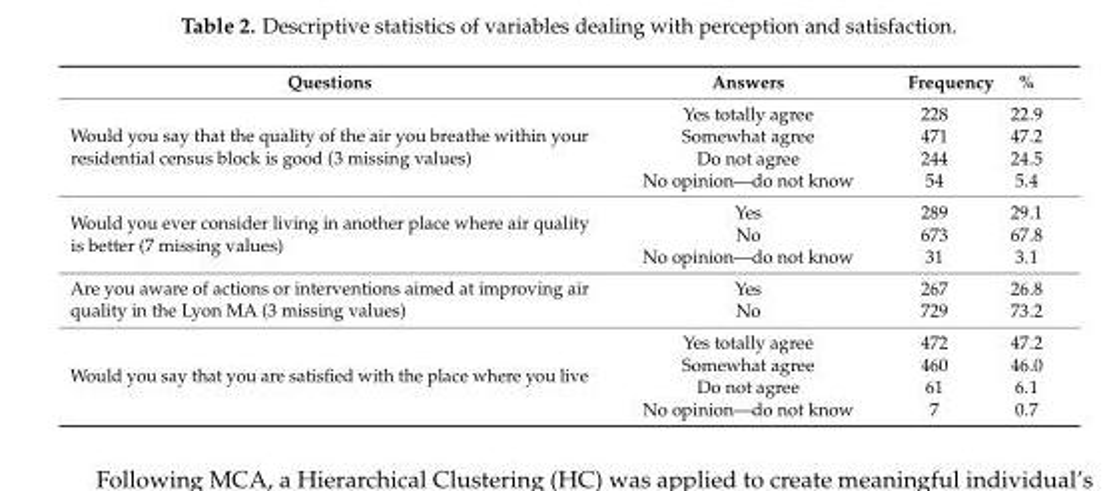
<table><thead><tr><td>Questions</td><td>Answers</td><td>Frequency</td><td>%</td></tr></thead><tbody><tr><td rowspan="4">Would you say that the quality of the air you breathe within your residential census block is good (3 missing values)</td><td>Yes totally agree</td><td>228</td><td>22.9</td></tr><tr><td>Somewhat agree</td><td>471</td><td>47.2</td></tr><tr><td>Do not agree</td><td>244</td><td>24.5</td></tr><tr><td>No opinion—do not know</td><td>54</td><td>5.4</td></tr><tr><td rowspan="3">Would you ever consider living in another place where air quality is better (7 missing values)</td><td>Yes</td><td>289</td><td>29.1</td></tr><tr><td>No</td><td>673</td><td>67.8</td></tr><tr><td>No opinion—do not know</td><td>31</td><td>3.1</td></tr><tr><td rowspan="2">Are you aware of actions or interventions aimed at improving air quality in the Lyon MA (3 missing values)</td><td>Yes</td><td>267</td><td>26.8</td></tr><tr><td>No</td><td>729</td><td>73.2</td></tr><tr><td rowspan="4">Would you say that you are satisfied with the place where you live</td><td>Yes totally agree</td><td>472</td><td>47.2</td></tr><tr><td>Somewhat agree</td><td>460</td><td>46.0</td></tr><tr><td>Do not agree</td><td>61</td><td>6.1</td></tr><tr><td>No opinion—do not know</td><td>7</td><td>0.7</td></tr></tbody></table>